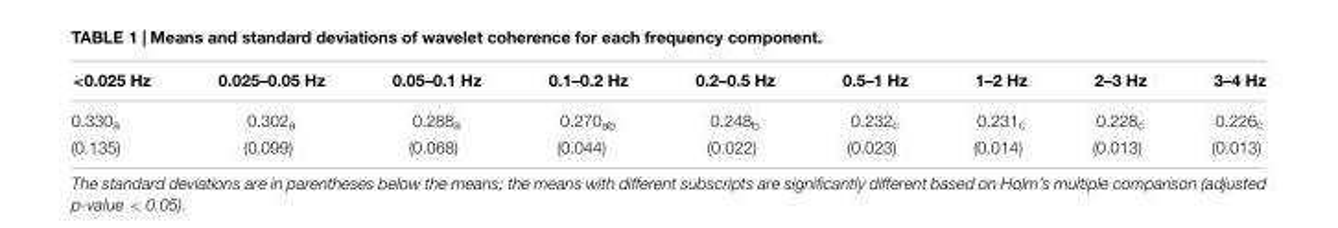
<table><thead><tr><td>&lt;0.025 Hz</td><td>0.025–0.05 Hz</td><td>0.05–0.1 Hz</td><td>0.1–0.2 Hz</td><td>0.2–0.5 Hz</td><td>0.5–1 Hz</td><td>1–2 Hz</td><td>2–3 Hz</td><td>3–4 Hz</td></tr></thead><tbody><tr><td>0.330<sub>a</sub></td><td>0.302<sub>a</sub></td><td>0.288<sub>a</sub></td><td>0.270<sub>ab</sub></td><td>0.248<sub>b</sub></td><td>0.232<sub>c</sub></td><td>0.231<sub>c</sub></td><td>0.228<sub>c</sub></td><td>0.226<sub>c</sub></td></tr><tr><td>(0.135)</td><td>(0.099)</td><td>(0.068)</td><td>(0.044)</td><td>(0.022)</td><td>(0.023)</td><td>(0.014)</td><td>(0.013)</td><td>(0.013)</td></tr></tbody></table>